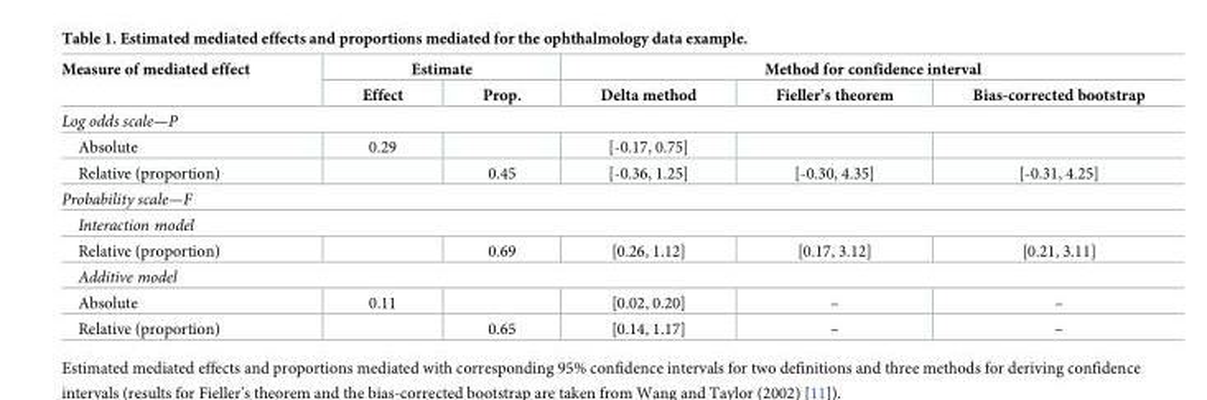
<table><thead><tr><td rowspan="2">Measure of mediated effect</td><td colspan="2">Estimate</td><td colspan="3">Method for confidence interval</td></tr><tr><td>Effect</td><td>Prop.</td><td>Delta method</td><td>Fieller’s theorem</td><td>Bias-corrected bootstrap</td></tr></thead><tbody><tr><td colspan="6">Log odds scale—P</td></tr><tr><td>Absolute</td><td>0.29</td><td></td><td>[-0.17, 0.75]</td><td></td><td></td></tr><tr><td>Relative (proportion)</td><td></td><td>0.45</td><td>[-0.36, 1.25]</td><td>[-0.30, 4.35]</td><td>[-0.31, 4.25]</td></tr><tr><td colspan="6">Probability scale—F</td></tr><tr><td colspan="6">Interaction model</td></tr><tr><td>Relative (proportion)</td><td></td><td>0.69</td><td>[0.26, 1.12]</td><td>[0.17, 3.12]</td><td>[0.21, 3.11]</td></tr><tr><td colspan="6">Additive model</td></tr><tr><td>Absolute</td><td>0.11</td><td></td><td>[0.02, 0.20]</td><td>–</td><td>–</td></tr><tr><td>Relative (proportion)</td><td></td><td>0.65</td><td>[0.14, 1.17]</td><td>–</td><td>–</td></tr></tbody></table>